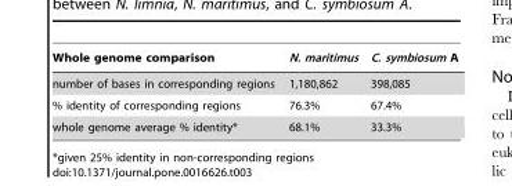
<table><thead><tr><td>Whole genome comparison</td><td>N. maritimus</td><td>C. symbiosum A</td></tr></thead><tbody><tr><td>number of bases in corresponding regions</td><td>1,180,862</td><td>398,085</td></tr><tr><td>% identity of corresponding regions</td><td>76.3%</td><td>67.4%</td></tr><tr><td>whole genome average % identity*</td><td>68.1%</td><td>33.3%</td></tr></tbody></table>